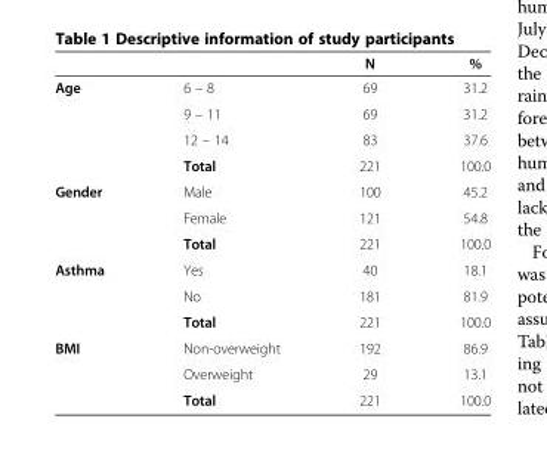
<table><thead><tr><td></td><td></td><td>N</td><td>%</td></tr></thead><tbody><tr><td rowspan="4">Age</td><td>6 – 8</td><td>69</td><td>31.2</td></tr><tr><td>9 – 11</td><td>69</td><td>31.2</td></tr><tr><td>12 – 14</td><td>83</td><td>37.6</td></tr><tr><td>Total</td><td>221</td><td>100.0</td></tr><tr><td rowspan="3">Gender</td><td>Male</td><td>100</td><td>45.2</td></tr><tr><td>Female</td><td>121</td><td>54.8</td></tr><tr><td>Total</td><td>221</td><td>100.0</td></tr><tr><td rowspan="3">Asthma</td><td>Yes</td><td>40</td><td>18.1</td></tr><tr><td>No</td><td>181</td><td>81.9</td></tr><tr><td>Total</td><td>221</td><td>100.0</td></tr><tr><td rowspan="3">BMI</td><td>Non-overweight</td><td>192</td><td>86.9</td></tr><tr><td>Overweight</td><td>29</td><td>13.1</td></tr><tr><td>Total</td><td>221</td><td>100.0</td></tr></tbody></table>